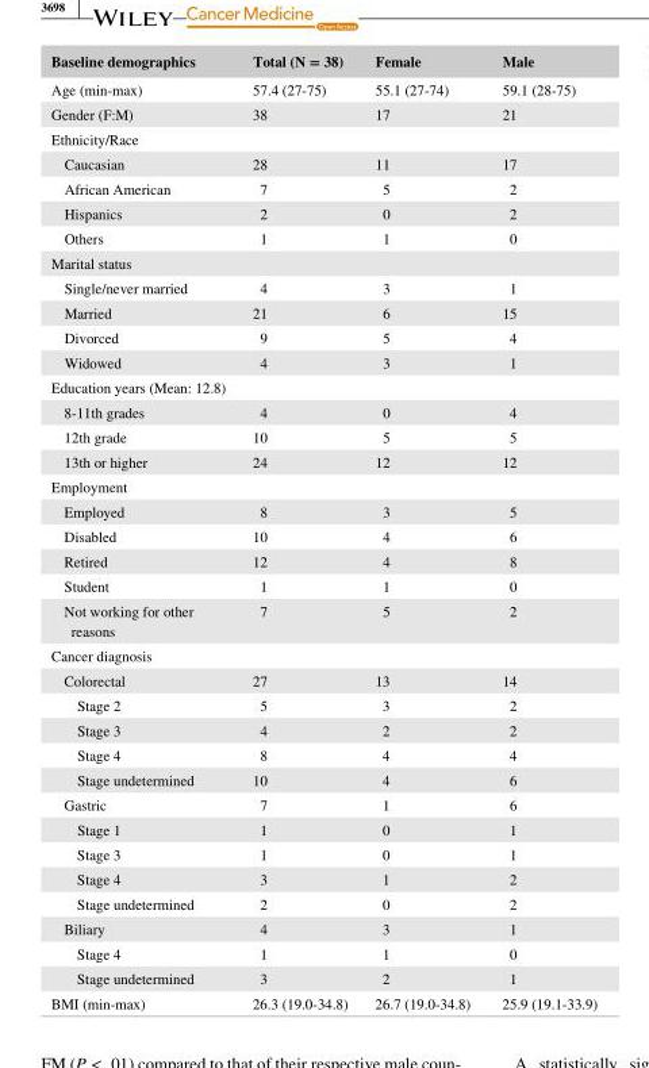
<table><thead><tr><td>Baseline demographics</td><td>Total (N = 38)</td><td>Female</td><td>Male</td></tr></thead><tbody><tr><td>Age (min- max)</td><td>57.4 (27- 75)</td><td>55.1 (27- 74)</td><td>59.1 (28- 75)</td></tr><tr><td>Gender (F:M)</td><td>38</td><td>17</td><td>21</td></tr><tr><td colspan="4">Ethnicity/Race</td></tr><tr><td>Caucasian</td><td>28</td><td>11</td><td>17</td></tr><tr><td>African American</td><td>7</td><td>5</td><td>2</td></tr><tr><td>Hispanics</td><td>2</td><td>0</td><td>2</td></tr><tr><td>Others</td><td>1</td><td>1</td><td>0</td></tr><tr><td colspan="4">Marital status</td></tr><tr><td>Single/never married</td><td>4</td><td>3</td><td>1</td></tr><tr><td>Married</td><td>21</td><td>6</td><td>15</td></tr><tr><td>Divorced</td><td>9</td><td>5</td><td>4</td></tr><tr><td>Widowed</td><td>4</td><td>3</td><td>1</td></tr><tr><td colspan="4">Education years (Mean: 12.8)</td></tr><tr><td>8- 11th grades</td><td>4</td><td>0</td><td>4</td></tr><tr><td>12th grade</td><td>10</td><td>5</td><td>5</td></tr><tr><td>13th or higher</td><td>24</td><td>12</td><td>12</td></tr><tr><td colspan="4">Employment</td></tr><tr><td>Employed</td><td>8</td><td>3</td><td>5</td></tr><tr><td>Disabled</td><td>10</td><td>4</td><td>6</td></tr><tr><td>Retired</td><td>12</td><td>4</td><td>8</td></tr><tr><td>Student</td><td>1</td><td>1</td><td>0</td></tr><tr><td>Not working for other reasons</td><td>7</td><td>5</td><td>2</td></tr><tr><td colspan="4">Cancer diagnosis</td></tr><tr><td>Colorectal</td><td>27</td><td>13</td><td>14</td></tr><tr><td>Stage 2</td><td>5</td><td>3</td><td>2</td></tr><tr><td>Stage 3</td><td>4</td><td>2</td><td>2</td></tr><tr><td>Stage 4</td><td>8</td><td>4</td><td>4</td></tr><tr><td>Stage undetermined</td><td>10</td><td>4</td><td>6</td></tr><tr><td>Gastric</td><td>7</td><td>1</td><td>6</td></tr><tr><td>Stage 1</td><td>1</td><td>0</td><td>1</td></tr><tr><td>Stage 3</td><td>1</td><td>0</td><td>1</td></tr><tr><td>Stage 4</td><td>3</td><td>1</td><td>2</td></tr><tr><td>Stage undetermined</td><td>2</td><td>0</td><td>2</td></tr><tr><td>Biliary</td><td>4</td><td>3</td><td>1</td></tr><tr><td>Stage 4</td><td>1</td><td>1</td><td>0</td></tr><tr><td>Stage undetermined</td><td>3</td><td>2</td><td>1</td></tr><tr><td>BMI (min- max)</td><td>26.3 (19.0- 34.8)</td><td>26.7 (19.0- 34.8)</td><td>25.9 (19.1- 33.9)</td></tr></tbody></table>